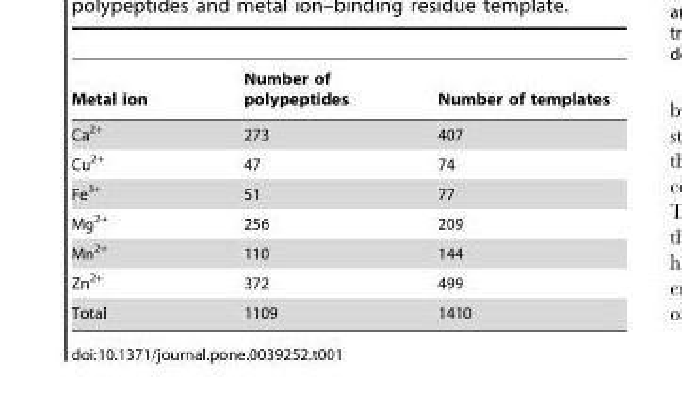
<table><thead><tr><td>Metal ion</td><td>Number of polypeptides</td><td>Number of templates</td></tr></thead><tbody><tr><td>Ca<sup>2+</sup></td><td>273</td><td>407</td></tr><tr><td>Cu<sup>2+</sup></td><td>47</td><td>74</td></tr><tr><td>Fe<sup>3+</sup></td><td>51</td><td>77</td></tr><tr><td>Mg<sup>2+</sup></td><td>256</td><td>209</td></tr><tr><td>Mn<sup>2+</sup></td><td>110</td><td>144</td></tr><tr><td>Zn<sup>2+</sup></td><td>372</td><td>499</td></tr><tr><td>Total</td><td>1109</td><td>1410</td></tr></tbody></table>